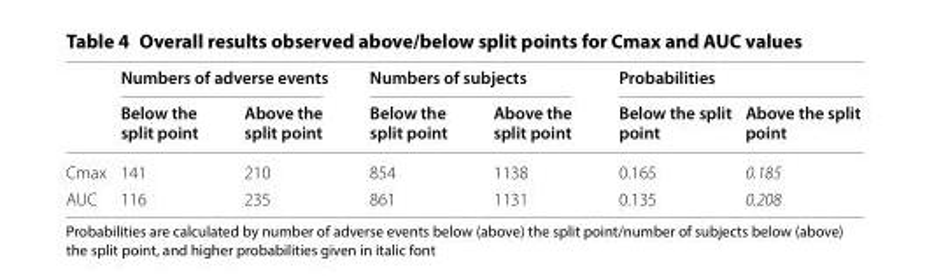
<table><thead><tr><td rowspan="2"></td><td colspan="2">Numbers of adverse events</td><td colspan="2">Numbers of subjects</td><td colspan="2">Probabilities</td></tr><tr><td>Below the split point</td><td>Above the split point</td><td>Below the split point</td><td>Above the split point</td><td>Below the split point</td><td>Above the split point</td></tr></thead><tbody><tr><td>Cmax</td><td>141</td><td>210</td><td>854</td><td>1138</td><td>0.165</td><td>0.185</td></tr><tr><td>AUC</td><td>116</td><td>235</td><td>861</td><td>1131</td><td>0.135</td><td>0.208</td></tr></tbody></table>